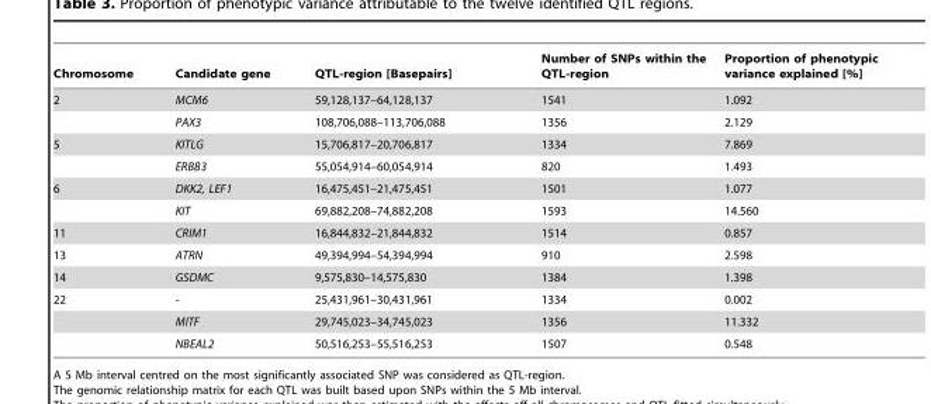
<table><thead><tr><td>Chromosome</td><td>Candidate gene</td><td>QTL-region [Basepairs]</td><td>Number of SNPs within the QTL-region</td><td>Proportion of phenotypic variance explained [%]</td></tr></thead><tbody><tr><td rowspan="2">2</td><td>MCM6</td><td>59,128,137–64,128,137</td><td>1541</td><td>1.092</td></tr><tr><td>PAX3</td><td>108,706,088–113,706,088</td><td>1356</td><td>2.129</td></tr><tr><td rowspan="2">5</td><td>KITLG</td><td>15,706,817–20,706,817</td><td>1334</td><td>7.869</td></tr><tr><td>ERBB3</td><td>55,054,914–60,054,914</td><td>820</td><td>1.493</td></tr><tr><td rowspan="2">6</td><td>DKK2, LEF1</td><td>16,475,451–21,475,451</td><td>1501</td><td>1.077</td></tr><tr><td>KIT</td><td>69,882,208–74,882,208</td><td>1593</td><td>14.560</td></tr><tr><td>11</td><td>CRIM1</td><td>16,844,832–21,844,832</td><td>1514</td><td>0.857</td></tr><tr><td>13</td><td>ATRN</td><td>49,394,994–54,394,994</td><td>910</td><td>2.598</td></tr><tr><td>14</td><td>GSDMC</td><td>9,575,830–14,575,830</td><td>1384</td><td>1.398</td></tr><tr><td rowspan="3">22</td><td>-</td><td>25,431,961–30,431,961</td><td>1334</td><td>0.002</td></tr><tr><td>MITF</td><td>29,745,023–34,745,023</td><td>1356</td><td>11.332</td></tr><tr><td>NBEAL2</td><td>50,516,253–55,516,253</td><td>1507</td><td>0.548</td></tr></tbody></table>